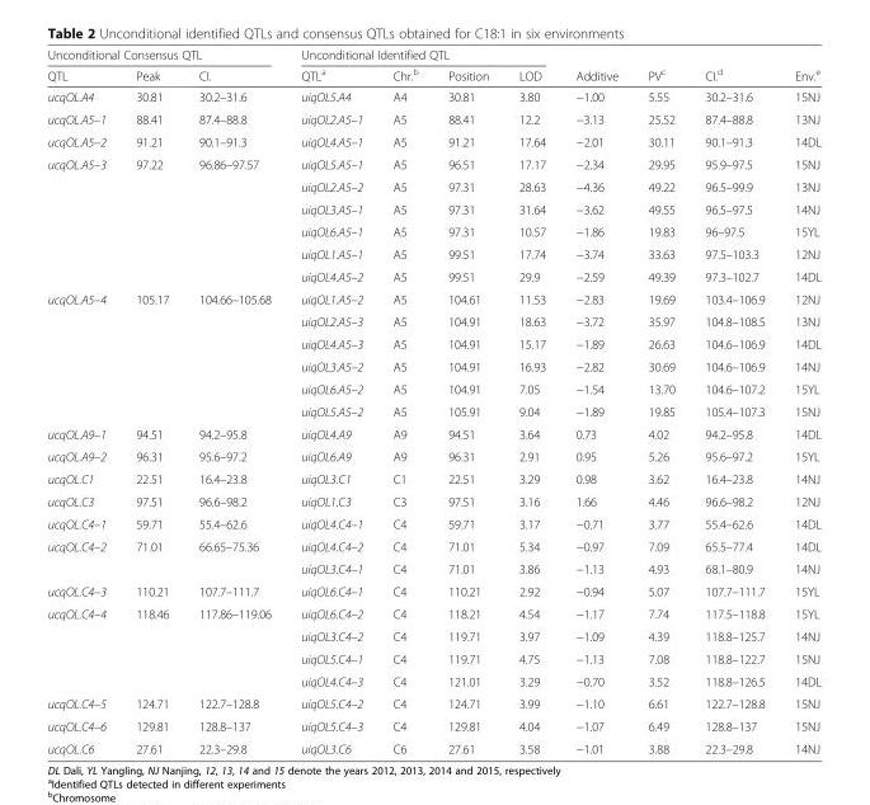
<table><thead><tr><td colspan="3">Unconditional Consensus QTL</td><td colspan="4">Unconditional Identified QTL</td><td rowspan="2">Additive</td><td rowspan="2">PV<sup>c</sup></td><td rowspan="2">CI.<sup>d</sup></td><td rowspan="2">Env.<sup>e</sup></td></tr><tr><td>QTL</td><td>Peak</td><td>CI.</td><td>QTL<sup>a</sup></td><td>Chr.<sup>b</sup></td><td>Position</td><td>LOD</td></tr></thead><tbody><tr><td>ucqOL.A4</td><td>30.81</td><td>30.2–31.6</td><td>uiqOL5.A4</td><td>A4</td><td>30.81</td><td>3.80</td><td>−1.00</td><td>5.55</td><td>30.2–31.6</td><td>15NJ</td></tr><tr><td>ucqOL.A5–1</td><td>88.41</td><td>87.4–88.8</td><td>uiqOL2.A5–1</td><td>A5</td><td>88.41</td><td>12.2</td><td>−3.13</td><td>25.52</td><td>87.4–88.8</td><td>13NJ</td></tr><tr><td>ucqOL.A5–2</td><td>91.21</td><td>90.1–91.3</td><td>uiqOL4.A5–1</td><td>A5</td><td>91.21</td><td>17.64</td><td>−2.01</td><td>30.11</td><td>90.1–91.3</td><td>14DL</td></tr><tr><td rowspan="6">ucqOL.A5–3</td><td rowspan="6">97.22</td><td rowspan="6">96.86–97.57</td><td>uiqOL5.A5–1</td><td>A5</td><td>96.51</td><td>17.17</td><td>−2.34</td><td>29.95</td><td>95.9–97.5</td><td>15NJ</td></tr><tr><td>uiqOL2.A5–2</td><td>A5</td><td>97.31</td><td>28.63</td><td>−4.36</td><td>49.22</td><td>96.5–99.9</td><td>13NJ</td></tr><tr><td>uiqOL3.A5–1</td><td>A5</td><td>97.31</td><td>31.64</td><td>−3.62</td><td>49.55</td><td>96.5–97.5</td><td>14NJ</td></tr><tr><td>uiqOL6.A5–1</td><td>A5</td><td>97.31</td><td>10.57</td><td>−1.86</td><td>19.83</td><td>96–97.5</td><td>15YL</td></tr><tr><td>uiqOL1.A5–1</td><td>A5</td><td>99.51</td><td>17.74</td><td>−3.74</td><td>33.63</td><td>97.5–103.3</td><td>12NJ</td></tr><tr><td>uiqOL4.A5–2</td><td>A5</td><td>99.51</td><td>29.9</td><td>−2.59</td><td>49.39</td><td>97.3–102.7</td><td>14DL</td></tr><tr><td rowspan="6">ucqOL.A5–4</td><td rowspan="6">105.17</td><td rowspan="6">104.66–105.68</td><td>uiqOL1.A5–2</td><td>A5</td><td>104.61</td><td>11.53</td><td>−2.83</td><td>19.69</td><td>103.4–106.9</td><td>12NJ</td></tr><tr><td>uiqOL2.A5–3</td><td>A5</td><td>104.91</td><td>18.63</td><td>−3.72</td><td>35.97</td><td>104.8–108.5</td><td>13NJ</td></tr><tr><td>uiqOL4.A5–3</td><td>A5</td><td>104.91</td><td>15.17</td><td>−1.89</td><td>26.63</td><td>104.6–106.9</td><td>14DL</td></tr><tr><td>uiqOL3.A5–2</td><td>A5</td><td>104.91</td><td>16.93</td><td>−2.82</td><td>30.69</td><td>104.6–106.9</td><td>14NJ</td></tr><tr><td>uiqOL6.A5–2</td><td>A5</td><td>104.91</td><td>7.05</td><td>−1.54</td><td>13.70</td><td>104.6–107.2</td><td>15YL</td></tr><tr><td>uiqOL5.A5–2</td><td>A5</td><td>105.91</td><td>9.04</td><td>−1.89</td><td>19.85</td><td>105.4–107.3</td><td>15NJ</td></tr><tr><td>ucqOL.A9–1</td><td>94.51</td><td>94.2–95.8</td><td>uiqOL4.A9</td><td>A9</td><td>94.51</td><td>3.64</td><td>0.73</td><td>4.02</td><td>94.2–95.8</td><td>14DL</td></tr><tr><td>ucqOL.A9–2</td><td>96.31</td><td>95.6–97.2</td><td>uiqOL6.A9</td><td>A9</td><td>96.31</td><td>2.91</td><td>0.95</td><td>5.26</td><td>95.6–97.2</td><td>15YL</td></tr><tr><td>ucqOL.C1</td><td>22.51</td><td>16.4–23.8</td><td>uiqOL3.C1</td><td>C1</td><td>22.51</td><td>3.29</td><td>0.98</td><td>3.62</td><td>16.4–23.8</td><td>14NJ</td></tr><tr><td>ucqOL.C3</td><td>97.51</td><td>96.6–98.2</td><td>uiqOL1.C3</td><td>C3</td><td>97.51</td><td>3.16</td><td>1.66</td><td>4.46</td><td>96.6–98.2</td><td>12NJ</td></tr><tr><td>ucqOL.C4–1</td><td>59.71</td><td>55.4–62.6</td><td>uiqOL4.C4–1</td><td>C4</td><td>59.71</td><td>3.17</td><td>−0.71</td><td>3.77</td><td>55.4–62.6</td><td>14DL</td></tr><tr><td rowspan="2">ucqOL.C4–2</td><td rowspan="2">71.01</td><td rowspan="2">66.65–75.36</td><td>uiqOL4.C4–2</td><td>C4</td><td>71.01</td><td>5.34</td><td>−0.97</td><td>7.09</td><td>65.5–77.4</td><td>14DL</td></tr><tr><td>uiqOL3.C4–1</td><td>C4</td><td>71.01</td><td>3.86</td><td>−1.13</td><td>4.93</td><td>68.1–80.9</td><td>14NJ</td></tr><tr><td>ucqOL.C4–3</td><td>110.21</td><td>107.7–111.7</td><td>uiqOL6.C4–1</td><td>C4</td><td>110.21</td><td>2.92</td><td>−0.94</td><td>5.07</td><td>107.7–111.7</td><td>15YL</td></tr><tr><td rowspan="4">ucqOL.C4–4</td><td rowspan="4">118.46</td><td rowspan="4">117.86–119.06</td><td>uiqOL6.C4–2</td><td>C4</td><td>118.21</td><td>4.54</td><td>−1.17</td><td>7.74</td><td>117.5–118.8</td><td>15YL</td></tr><tr><td>uiqOL3.C4–2</td><td>C4</td><td>119.71</td><td>3.97</td><td>−1.09</td><td>4.39</td><td>118.8–125.7</td><td>14NJ</td></tr><tr><td>uiqOL5.C4–1</td><td>C4</td><td>119.71</td><td>4.75</td><td>−1.13</td><td>7.08</td><td>118.8–122.7</td><td>15NJ</td></tr><tr><td>uiqOL4.C4–3</td><td>C4</td><td>121.01</td><td>3.29</td><td>−0.70</td><td>3.52</td><td>118.8–126.5</td><td>14DL</td></tr><tr><td>ucqOL.C4–5</td><td>124.71</td><td>122.7–128.8</td><td>uiqOL5.C4–2</td><td>C4</td><td>124.71</td><td>3.99</td><td>−1.10</td><td>6.61</td><td>122.7–128.8</td><td>15NJ</td></tr><tr><td>ucqOL.C4–6</td><td>129.81</td><td>128.8–137</td><td>uiqOL5.C4–3</td><td>C4</td><td>129.81</td><td>4.04</td><td>−1.07</td><td>6.49</td><td>128.8–137</td><td>15NJ</td></tr><tr><td>ucqOL.C6</td><td>27.61</td><td>22.3–29.8</td><td>uiqOL3.C6</td><td>C6</td><td>27.61</td><td>3.58</td><td>−1.01</td><td>3.88</td><td>22.3–29.8</td><td>14NJ</td></tr></tbody></table>